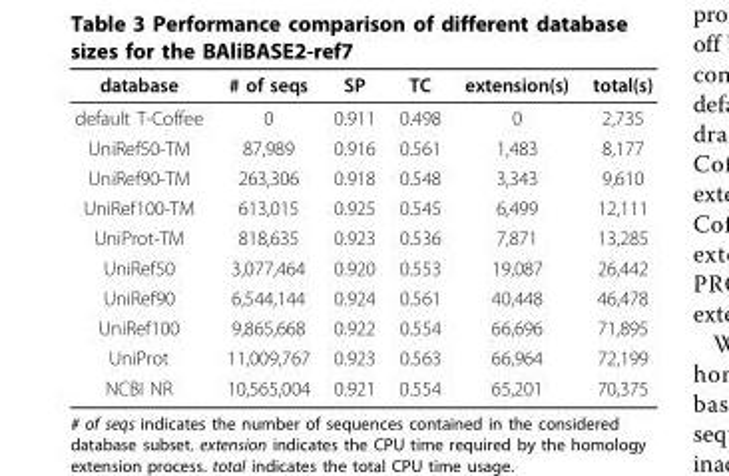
<table><thead><tr><td>database</td><td># of seqs</td><td>SP</td><td>TC</td><td>extension(s)</td><td>total(s)</td></tr></thead><tbody><tr><td>default T-Coffee</td><td>0</td><td>0.911</td><td>0.498</td><td>0</td><td>2,735</td></tr><tr><td>UniRef50-TM</td><td>87,989</td><td>0.916</td><td>0.561</td><td>1,483</td><td>8,177</td></tr><tr><td>UniRef90-TM</td><td>263,306</td><td>0.918</td><td>0.548</td><td>3,343</td><td>9,610</td></tr><tr><td>UniRef100-TM</td><td>613,015</td><td>0.925</td><td>0.545</td><td>6,499</td><td>12,111</td></tr><tr><td>UniProt-TM</td><td>818,635</td><td>0.923</td><td>0.536</td><td>7,871</td><td>13,285</td></tr><tr><td>UniRef50</td><td>3,077,464</td><td>0.920</td><td>0.553</td><td>19,087</td><td>26,442</td></tr><tr><td>UniRef90</td><td>6,544,144</td><td>0.924</td><td>0.561</td><td>40,448</td><td>46,478</td></tr><tr><td>UniRef100</td><td>9,865,668</td><td>0.922</td><td>0.554</td><td>66,696</td><td>71,895</td></tr><tr><td>UniProt</td><td>11,009,767</td><td>0.923</td><td>0.563</td><td>66,964</td><td>72,199</td></tr><tr><td>NCBI NR</td><td>10,565,004</td><td>0.921</td><td>0.554</td><td>65,201</td><td>70,375</td></tr></tbody></table>